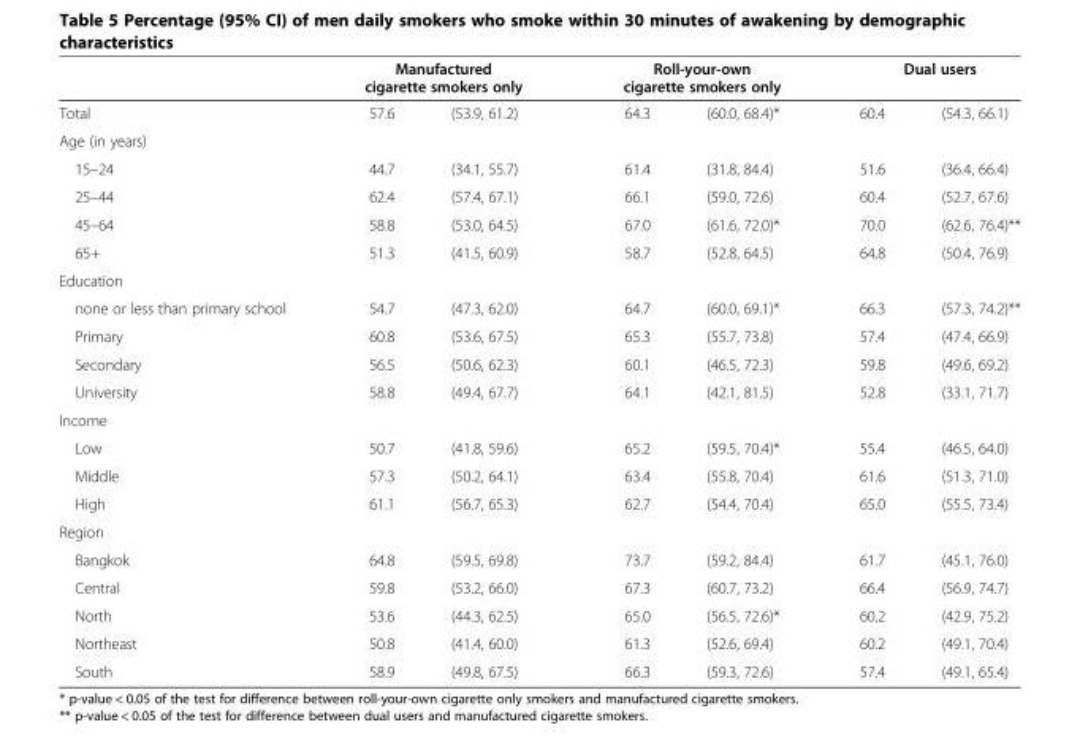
<table><thead><tr><td rowspan="2">Total</td><td colspan="2">Manufactured cigarette smokers only</td><td colspan="2">Roll-your-own cigarette smokers only</td><td colspan="2">Dual users</td></tr><tr><td>57.6</td><td>(53.9, 61.2)</td><td>64.3</td><td>(60.0, 68.4)*</td><td>60.4</td><td>(54.3, 66.1)</td></tr></thead><tbody><tr><td colspan="7">Age (in years)</td></tr><tr><td>15–24</td><td>44.7</td><td>(34.1, 55.7)</td><td>61.4</td><td>(31.8, 84.4)</td><td>51.6</td><td>(36.4, 66.4)</td></tr><tr><td>25–44</td><td>62.4</td><td>(57.4, 67.1)</td><td>66.1</td><td>(59.0, 72.6)</td><td>60.4</td><td>(52.7, 67.6)</td></tr><tr><td>45–64</td><td>58.8</td><td>(53.0, 64.5)</td><td>67.0</td><td>(61.6, 72.0)*</td><td>70.0</td><td>(62.6, 76.4)**</td></tr><tr><td>65+</td><td>51.3</td><td>(41.5, 60.9)</td><td>58.7</td><td>(52.8, 64.5)</td><td>64.8</td><td>(50.4, 76.9)</td></tr><tr><td colspan="7">Education</td></tr><tr><td>none or less than primary school</td><td>54.7</td><td>(47.3, 62.0)</td><td>64.7</td><td>(60.0, 69.1)*</td><td>66.3</td><td>(57.3, 74.2)**</td></tr><tr><td>Primary</td><td>60.8</td><td>(53.6, 67.5)</td><td>65.3</td><td>(55.7, 73.8)</td><td>57.4</td><td>(47.4, 66.9)</td></tr><tr><td>Secondary</td><td>56.5</td><td>(50.6, 62.3)</td><td>60.1</td><td>(46.5, 72.3)</td><td>59.8</td><td>(49.6, 69.2)</td></tr><tr><td>University</td><td>58.8</td><td>(49.4, 67.7)</td><td>64.1</td><td>(42.1, 81.5)</td><td>52.8</td><td>(33.1, 71.7)</td></tr><tr><td colspan="7">Income</td></tr><tr><td>Low</td><td>50.7</td><td>(41.8, 59.6)</td><td>65.2</td><td>(59.5, 70.4)*</td><td>55.4</td><td>(46.5, 64.0)</td></tr><tr><td>Middle</td><td>57.3</td><td>(50.2, 64.1)</td><td>63.4</td><td>(55.8, 70.4)</td><td>61.6</td><td>(51.3, 71.0)</td></tr><tr><td>High</td><td>61.1</td><td>(56.7, 65.3)</td><td>62.7</td><td>(54.4, 70.4)</td><td>65.0</td><td>(55.5, 73.4)</td></tr><tr><td colspan="7">Region</td></tr><tr><td>Bangkok</td><td>64.8</td><td>(59.5, 69.8)</td><td>73.7</td><td>(59.2, 84.4)</td><td>61.7</td><td>(45.1, 76.0)</td></tr><tr><td>Central</td><td>59.8</td><td>(53.2, 66.0)</td><td>67.3</td><td>(60.7, 73.2)</td><td>66.4</td><td>(56.9, 74.7)</td></tr><tr><td>North</td><td>53.6</td><td>(44.3, 62.5)</td><td>65.0</td><td>(56.5, 72.6)*</td><td>60.2</td><td>(42.9, 75.2)</td></tr><tr><td>Northeast</td><td>50.8</td><td>(41.4, 60.0)</td><td>61.3</td><td>(52.6, 69.4)</td><td>60.2</td><td>(49.1, 70.4)</td></tr><tr><td>South</td><td>58.9</td><td>(49.8, 67.5)</td><td>66.3</td><td>(59.3, 72.6)</td><td>57.4</td><td>(49.1, 65.4)</td></tr></tbody></table>